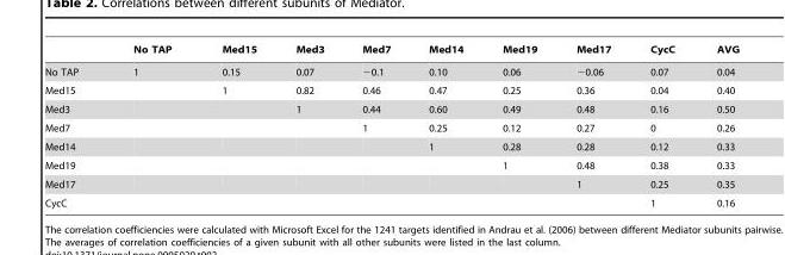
<table><thead><tr><td></td><td>No TAP</td><td>Med15</td><td>Med3</td><td>Med7</td><td>Med14</td><td>Med19</td><td>Med17</td><td>CycC</td><td>AVG</td></tr></thead><tbody><tr><td>No TAP</td><td>1</td><td>0.15</td><td>0.07</td><td>−0.1</td><td>0.10</td><td>0.06</td><td>−0.06</td><td>0.07</td><td>0.04</td></tr><tr><td>Med15</td><td></td><td>1</td><td>0.82</td><td>0.46</td><td>0.47</td><td>0.25</td><td>0.36</td><td>0.04</td><td>0.40</td></tr><tr><td>Med3</td><td></td><td></td><td>1</td><td>0.44</td><td>0.60</td><td>0.49</td><td>0.48</td><td>0.16</td><td>0.50</td></tr><tr><td>Med7</td><td></td><td></td><td></td><td>1</td><td>0.25</td><td>0.12</td><td>0.27</td><td>0</td><td>0.26</td></tr><tr><td>Med14</td><td></td><td></td><td></td><td></td><td>1</td><td>0.28</td><td>0.28</td><td>0.12</td><td>0.33</td></tr><tr><td>Med19</td><td></td><td></td><td></td><td></td><td></td><td>1</td><td>0.48</td><td>0.38</td><td>0.33</td></tr><tr><td>Med17</td><td></td><td></td><td></td><td></td><td></td><td></td><td>1</td><td>0.25</td><td>0.35</td></tr><tr><td>CycC</td><td></td><td></td><td></td><td></td><td></td><td></td><td></td><td>1</td><td>0.16</td></tr></tbody></table>